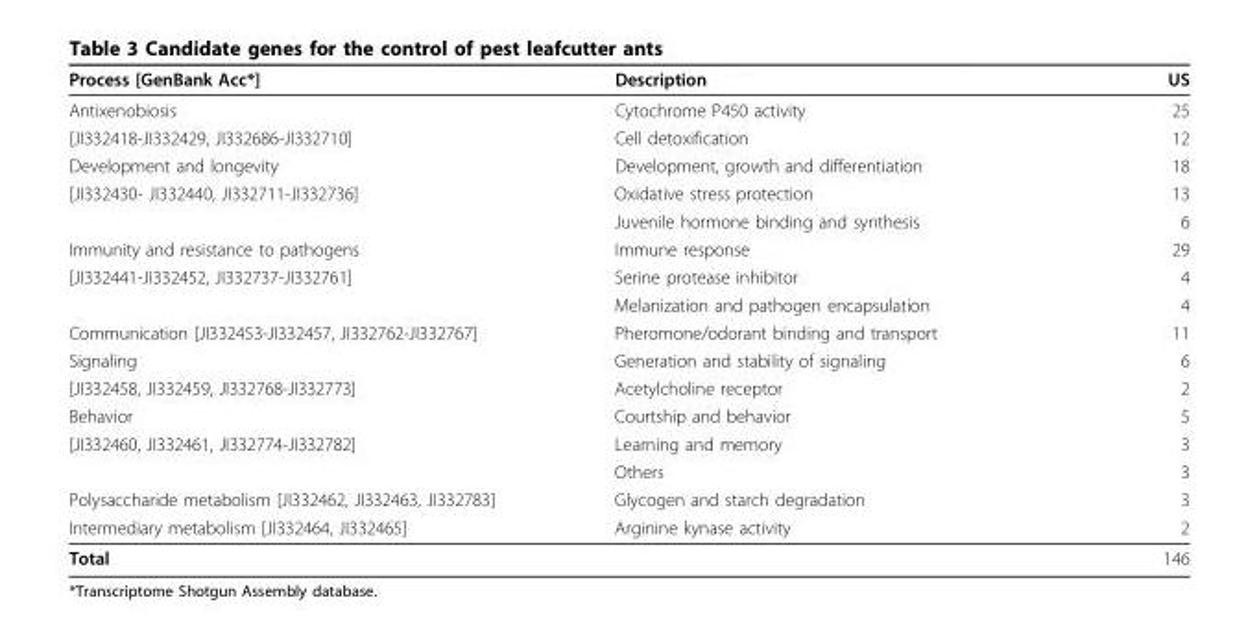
<table><thead><tr><td>Process [GenBank Acc*]</td><td>Description</td><td>US</td></tr></thead><tbody><tr><td>Antixenobiosis</td><td>Cytochrome P450 activity</td><td>25</td></tr><tr><td>[JI332418-JI332429, JI332686-JI332710]</td><td>Cell detoxification</td><td>12</td></tr><tr><td>Development and longevity</td><td>Development, growth and differentiation</td><td>18</td></tr><tr><td rowspan="2">[JI332430- JI332440, JI332711-JI332736]</td><td>Oxidative stress protection</td><td>13</td></tr><tr><td>Juvenile hormone binding and synthesis</td><td>6</td></tr><tr><td>Immunity and resistance to pathogens</td><td>Immune response</td><td>29</td></tr><tr><td rowspan="2">[JI332441-JI332452, JI332737-JI332761]</td><td>Serine protease inhibitor</td><td>4</td></tr><tr><td>Melanization and pathogen encapsulation</td><td>4</td></tr><tr><td>Communication [JI332453-JI332457, JI332762-JI332767]</td><td>Pheromone/odorant binding and transport</td><td>11</td></tr><tr><td>Signaling</td><td>Generation and stability of signaling</td><td>6</td></tr><tr><td>[JI332458, JI332459, JI332768-JI332773]</td><td>Acetylcholine receptor</td><td>2</td></tr><tr><td>Behavior</td><td>Courtship and behavior</td><td>5</td></tr><tr><td rowspan="2">[JI332460, JI332461, JI332774-JI332782]</td><td>Learning and memory</td><td>3</td></tr><tr><td>Others</td><td>3</td></tr><tr><td>Polysaccharide metabolism [JI332462, JI332463, JI332783]</td><td>Glycogen and starch degradation</td><td>3</td></tr><tr><td>Intermediary metabolism [JI332464, JI332465]</td><td>Arginine kynase activity</td><td>2</td></tr><tr><td>Total</td><td></td><td>146</td></tr></tbody></table>